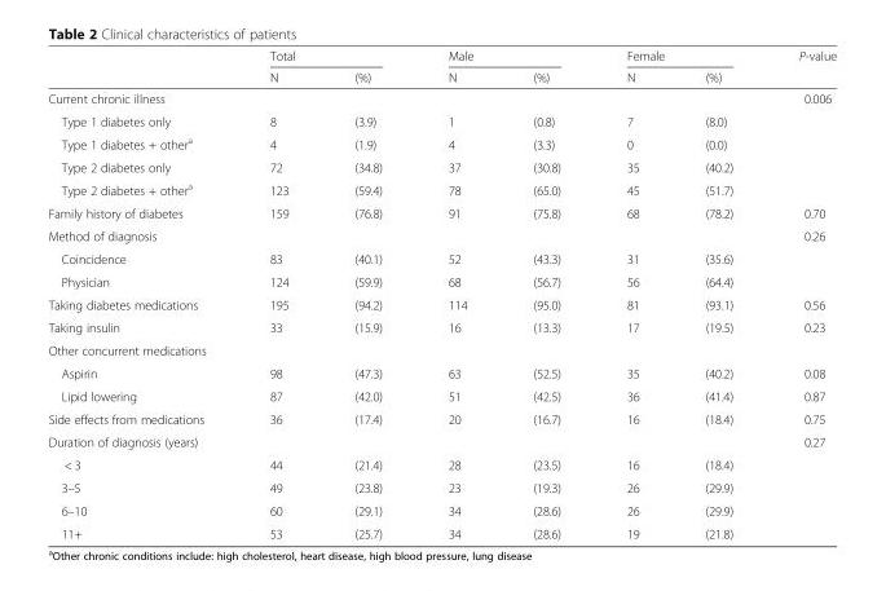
<table><thead><tr><td rowspan="2"></td><td colspan="2">Total</td><td colspan="2">Male</td><td colspan="2">Female</td><td rowspan="2">P-value</td></tr><tr><td>N</td><td>(%)</td><td>N</td><td>(%)</td><td>N</td><td>(%)</td></tr></thead><tbody><tr><td>Current chronic illness</td><td></td><td></td><td></td><td></td><td></td><td></td><td>0.006</td></tr><tr><td>Type 1 diabetes only</td><td>8</td><td>(3.9)</td><td>1</td><td>(0.8)</td><td>7</td><td>(8.0)</td><td></td></tr><tr><td>Type 1 diabetes + other<sup>a</sup></td><td>4</td><td>(1.9)</td><td>4</td><td>(3.3)</td><td>0</td><td>(0.0)</td><td></td></tr><tr><td>Type 2 diabetes only</td><td>72</td><td>(34.8)</td><td>37</td><td>(30.8)</td><td>35</td><td>(40.2)</td><td></td></tr><tr><td>Type 2 diabetes + other<sup>a</sup></td><td>123</td><td>(59.4)</td><td>78</td><td>(65.0)</td><td>45</td><td>(51.7)</td><td></td></tr><tr><td>Family history of diabetes</td><td>159</td><td>(76.8)</td><td>91</td><td>(75.8)</td><td>68</td><td>(78.2)</td><td>0.70</td></tr><tr><td>Method of diagnosis</td><td></td><td></td><td></td><td></td><td></td><td></td><td>0.26</td></tr><tr><td>Coincidence</td><td>83</td><td>(40.1)</td><td>52</td><td>(43.3)</td><td>31</td><td>(35.6)</td><td></td></tr><tr><td>Physician</td><td>124</td><td>(59.9)</td><td>68</td><td>(56.7)</td><td>56</td><td>(64.4)</td><td></td></tr><tr><td>Taking diabetes medications</td><td>195</td><td>(94.2)</td><td>114</td><td>(95.0)</td><td>81</td><td>(93.1)</td><td>0.56</td></tr><tr><td>Taking insulin</td><td>33</td><td>(15.9)</td><td>16</td><td>(13.3)</td><td>17</td><td>(19.5)</td><td>0.23</td></tr><tr><td colspan="8">Other concurrent medications</td></tr><tr><td>Aspirin</td><td>98</td><td>(47.3)</td><td>63</td><td>(52.5)</td><td>35</td><td>(40.2)</td><td>0.08</td></tr><tr><td>Lipid lowering</td><td>87</td><td>(42.0)</td><td>51</td><td>(42.5)</td><td>36</td><td>(41.4)</td><td>0.87</td></tr><tr><td>Side effects from medications</td><td>36</td><td>(17.4)</td><td>20</td><td>(16.7)</td><td>16</td><td>(18.4)</td><td>0.75</td></tr><tr><td>Duration of diagnosis (years)</td><td></td><td></td><td></td><td></td><td></td><td></td><td>0.27</td></tr><tr><td>&lt; 3</td><td>44</td><td>(21.4)</td><td>28</td><td>(23.5)</td><td>16</td><td>(18.4)</td><td></td></tr><tr><td>3–5</td><td>49</td><td>(23.8)</td><td>23</td><td>(19.3)</td><td>26</td><td>(29.9)</td><td></td></tr><tr><td>6–10</td><td>60</td><td>(29.1)</td><td>34</td><td>(28.6)</td><td>26</td><td>(29.9)</td><td></td></tr><tr><td>11+</td><td>53</td><td>(25.7)</td><td>34</td><td>(28.6)</td><td>19</td><td>(21.8)</td><td></td></tr></tbody></table>